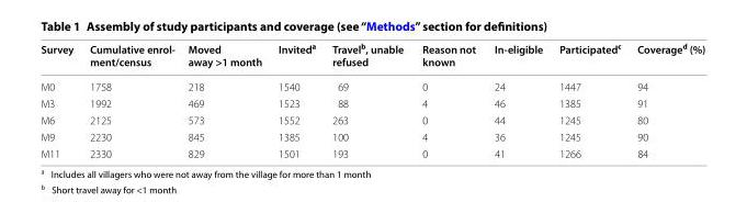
<table><thead><tr><td>Survey</td><td>Cumulative enrol- ment/census</td><td>Moved away &gt;1 month</td><td>Invited<sup>a</sup></td><td>Travel<sup>b</sup>, unable refused</td><td>Reason not known</td><td>In-eligible</td><td>Participated<sup>c</sup></td><td>Coverage<sup>d</sup> (%)</td></tr></thead><tbody><tr><td>M0</td><td>1758</td><td>218</td><td>1540</td><td>69</td><td>0</td><td>24</td><td>1447</td><td>94</td></tr><tr><td>M3</td><td>1992</td><td>469</td><td>1523</td><td>88</td><td>4</td><td>46</td><td>1385</td><td>91</td></tr><tr><td>M6</td><td>2125</td><td>573</td><td>1552</td><td>263</td><td>0</td><td>44</td><td>1245</td><td>80</td></tr><tr><td>M9</td><td>2230</td><td>845</td><td>1385</td><td>100</td><td>4</td><td>36</td><td>1245</td><td>90</td></tr><tr><td>M11</td><td>2330</td><td>829</td><td>1501</td><td>193</td><td>0</td><td>41</td><td>1266</td><td>84</td></tr></tbody></table>